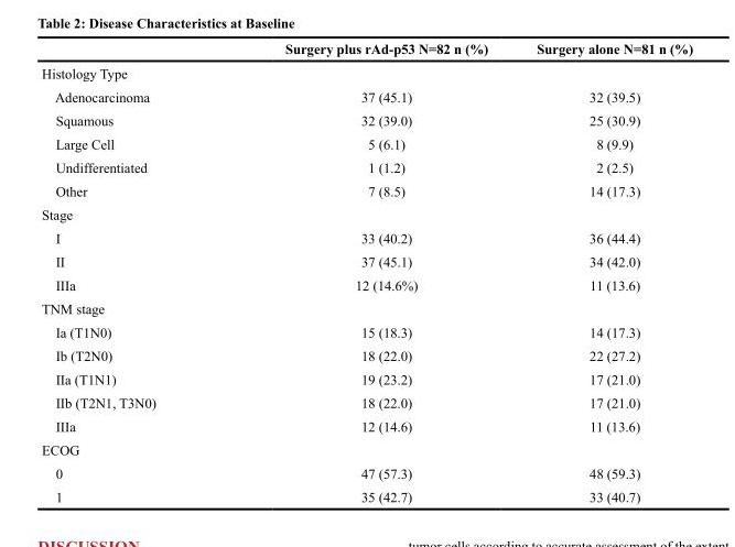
<table><thead><tr><td></td><td>Surgery plus rAd-p53 N=82 n (%)</td><td>Surgery alone N=81 n (%)</td></tr></thead><tbody><tr><td colspan="3">Histology Type</td></tr><tr><td>Adenocarcinoma</td><td>37 (45.1)</td><td>32 (39.5)</td></tr><tr><td>Squamous</td><td>32 (39.0)</td><td>25 (30.9)</td></tr><tr><td>Large Cell</td><td>5 (6.1)</td><td>8 (9.9)</td></tr><tr><td>Undifferentiated</td><td>1 (1.2)</td><td>2 (2.5)</td></tr><tr><td>Other</td><td>7 (8.5)</td><td>14 (17.3)</td></tr><tr><td colspan="3">Stage</td></tr><tr><td>I</td><td>33 (40.2)</td><td>36 (44.4)</td></tr><tr><td>II</td><td>37 (45.1)</td><td>34 (42.0)</td></tr><tr><td>IIIa</td><td>12 (14.6%)</td><td>11 (13.6)</td></tr><tr><td colspan="3">TNM stage</td></tr><tr><td>Ia (T1N0)</td><td>15 (18.3)</td><td>14 (17.3)</td></tr><tr><td>Ib (T2N0)</td><td>18 (22.0)</td><td>22 (27.2)</td></tr><tr><td>IIa (T1N1)</td><td>19 (23.2)</td><td>17 (21.0)</td></tr><tr><td>IIb (T2N1, T3N0)</td><td>18 (22.0)</td><td>17 (21.0)</td></tr><tr><td>IIIa</td><td>12 (14.6)</td><td>11 (13.6)</td></tr><tr><td colspan="3">ECOG</td></tr><tr><td>0</td><td>47 (57.3)</td><td>48 (59.3)</td></tr><tr><td>1</td><td>35 (42.7)</td><td>33 (40.7)</td></tr></tbody></table>